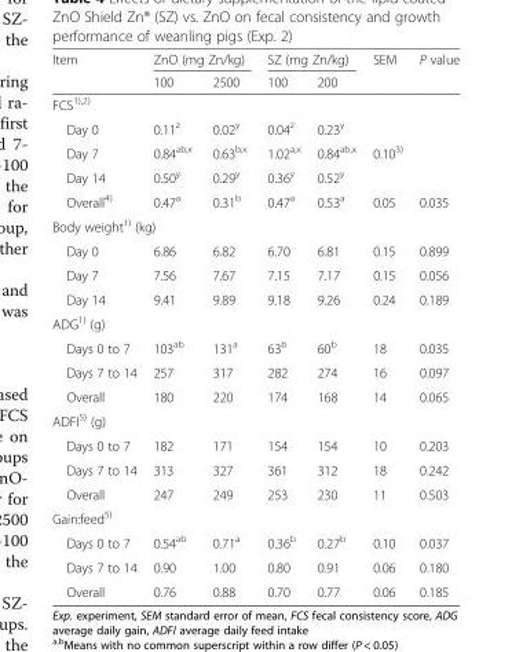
<table><thead><tr><td rowspan="2">Item</td><td colspan="2">ZnO (mg Zn/kg)</td><td colspan="2">SZ (mg Zn/kg)</td><td rowspan="2">SEM</td><td rowspan="2">P value</td></tr><tr><td>100</td><td>2500</td><td>100</td><td>200</td></tr></thead><tbody><tr><td colspan="7">FCS<sup>1),2)</sup></td></tr><tr><td>Day 0</td><td>0.11<sup>z</sup></td><td>0.02<sup>y</sup></td><td>0.04<sup>z</sup></td><td>0.23<sup>y</sup></td><td></td><td></td></tr><tr><td>Day 7</td><td>0.84<sup>ab,x</sup></td><td>0.63<sup>b,x</sup></td><td>1.02<sup>a,x</sup></td><td>0.84<sup>ab,x</sup></td><td>0.10<sup>3)</sup></td><td></td></tr><tr><td>Day 14</td><td>0.50<sup>y</sup></td><td>0.29<sup>y</sup></td><td>0.36<sup>y</sup></td><td>0.52<sup>y</sup></td><td></td><td></td></tr><tr><td>Overall<sup>4)</sup></td><td>0.47<sup>a</sup></td><td>0.31<sup>b</sup></td><td>0.47<sup>a</sup></td><td>0.53<sup>a</sup></td><td>0.05</td><td>0.035</td></tr><tr><td colspan="7">Body weight<sup>1)</sup> (kg)</td></tr><tr><td>Day 0</td><td>6.86</td><td>6.82</td><td>6.70</td><td>6.81</td><td>0.15</td><td>0.899</td></tr><tr><td>Day 7</td><td>7.56</td><td>7.67</td><td>7.15</td><td>7.17</td><td>0.15</td><td>0.056</td></tr><tr><td>Day 14</td><td>9.41</td><td>9.89</td><td>9.18</td><td>9.26</td><td>0.24</td><td>0.189</td></tr><tr><td colspan="7">ADG<sup>1)</sup> (g)</td></tr><tr><td>Days 0 to 7</td><td>103<sup>ab</sup></td><td>131<sup>a</sup></td><td>63<sup>b</sup></td><td>60<sup>b</sup></td><td>18</td><td>0.035</td></tr><tr><td>Days 7 to 14</td><td>257</td><td>317</td><td>282</td><td>274</td><td>16</td><td>0.097</td></tr><tr><td>Overall</td><td>180</td><td>220</td><td>174</td><td>168</td><td>14</td><td>0.065</td></tr><tr><td colspan="7">ADFI<sup>5)</sup> (g)</td></tr><tr><td>Days 0 to 7</td><td>182</td><td>171</td><td>154</td><td>154</td><td>10</td><td>0.203</td></tr><tr><td>Days 7 to 14</td><td>313</td><td>327</td><td>361</td><td>312</td><td>18</td><td>0.242</td></tr><tr><td>Overall</td><td>247</td><td>249</td><td>253</td><td>230</td><td>11</td><td>0.503</td></tr><tr><td colspan="7">Gain:feed<sup>5)</sup></td></tr><tr><td>Days 0 to 7</td><td>0.54<sup>ab</sup></td><td>0.71<sup>a</sup></td><td>0.36<sup>b</sup></td><td>0.27<sup>b</sup></td><td>0.10</td><td>0.037</td></tr><tr><td>Days 7 to 14</td><td>0.90</td><td>1.00</td><td>0.80</td><td>0.91</td><td>0.06</td><td>0.180</td></tr><tr><td>Overall</td><td>0.76</td><td>0.88</td><td>0.70</td><td>0.77</td><td>0.06</td><td>0.185</td></tr></tbody></table>